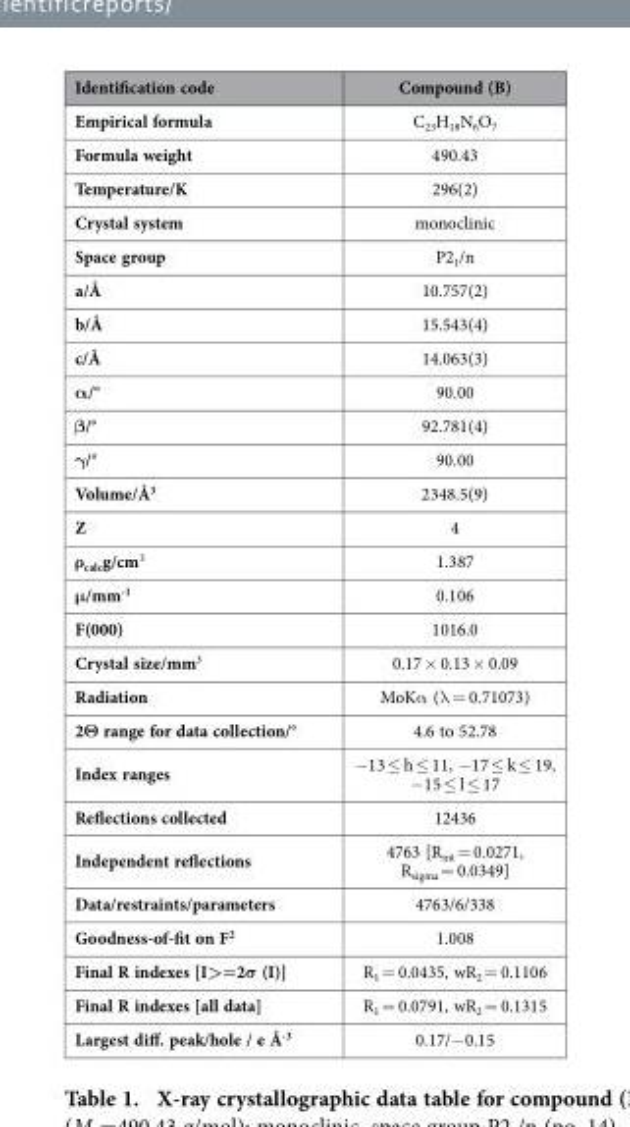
<table><thead><tr><td>Identification code</td><td>Compound (B)</td></tr></thead><tbody><tr><td>Empirical formula</td><td>C<sub>23</sub>H<sub>18</sub>N<sub>6</sub>O<sub>7</sub></td></tr><tr><td>Formula weight</td><td>490.43</td></tr><tr><td>Temperature/K</td><td>296(2)</td></tr><tr><td>Crystal system</td><td>monoclinic</td></tr><tr><td>Space group</td><td>P2<sub>1</sub>/n</td></tr><tr><td>a/Å</td><td>10.757(2)</td></tr><tr><td>b/Å</td><td>15.543(4)</td></tr><tr><td>c/Å</td><td>14.063(3)</td></tr><tr><td>α/°</td><td>90.00</td></tr><tr><td>β/°</td><td>92.781(4)</td></tr><tr><td>γ/°</td><td>90.00</td></tr><tr><td>Volume/Å<sup>3</sup></td><td>2348.5(9)</td></tr><tr><td>Z</td><td>4</td></tr><tr><td>ρ<sub>calc</sub>g/cm<sup>3</sup></td><td>1.387</td></tr><tr><td>μ/mm<sup>-1</sup></td><td>0.106</td></tr><tr><td>F(000)</td><td>1016.0</td></tr><tr><td>Crystal size/mm<sup>3</sup></td><td>0.17 × 0.13 × 0.09</td></tr><tr><td>Radiation</td><td>MoKα (λ = 0.71073)</td></tr><tr><td>2Θ range for data collection/°</td><td>4.6 to 52.78</td></tr><tr><td>Index ranges</td><td>−13 ≤ h ≤ 11, −17 ≤ k ≤ 19, −15 ≤ l ≤ 17</td></tr><tr><td>Reflections collected</td><td>12436</td></tr><tr><td>Independent reflections</td><td>4763 [R<sub>int</sub> = 0.0271, R<sub>sigma</sub> = 0.0349]</td></tr><tr><td>Data/restraints/parameters</td><td>4763/6/338</td></tr><tr><td>Goodness-of-fit on F<sup>2</sup></td><td>1.008</td></tr><tr><td>Final R indexes [I&gt;=2σ (I)]</td><td>R<sub>1</sub> = 0.0435, wR<sub>2</sub> = 0.1106</td></tr><tr><td>Final R indexes [all data]</td><td>R<sub>1</sub> = 0.0791, wR<sub>2</sub> = 0.1315</td></tr><tr><td>Largest diff. peak/hole / e Å<sup>-3</sup></td><td>0.17/− 0.15</td></tr></tbody></table>